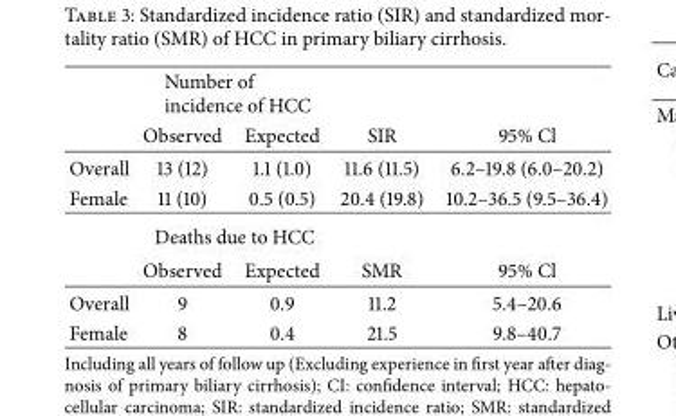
<table><thead><tr><td rowspan="2"></td><td colspan="2">Number of incidence of HCC</td><td rowspan="2">SIR</td><td rowspan="2">95% Cl</td></tr><tr><td>Observed</td><td>Expected</td></tr></thead><tbody><tr><td>Overall</td><td>13 (12)</td><td>1.1 (1.0)</td><td>11.6 (11.5)</td><td>6.2–19.8 (6.0–20.2)</td></tr><tr><td rowspan="3">Female</td><td>11 (10)</td><td>0.5 (0.5)</td><td>20.4 (19.8)</td><td>10.2–36.5 (9.5–36.4)</td></tr><tr><td colspan="2">Deaths due to HCC</td><td></td><td></td></tr><tr><td>Observed</td><td>Expected</td><td>SMR</td><td>95% Cl</td></tr><tr><td>Overall</td><td>9</td><td>0.9</td><td>11.2</td><td>5.4–20.6</td></tr><tr><td>Female</td><td>8</td><td>0.4</td><td>21.5</td><td>9.8–40.7</td></tr></tbody></table>